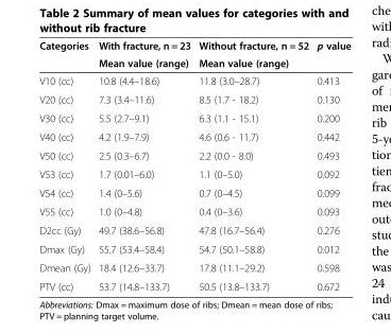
<table><thead><tr><td rowspan="2">Categories</td><td rowspan="2">With fracture, n = 23 Mean value (range)</td><td rowspan="2">Without fracture, n = 52 Mean value (range)</td><td rowspan="2">p value</td></tr><tr></tr></thead><tbody><tr><td>V10 (cc)</td><td>10.8 (4.4–18.6)</td><td>11.8 (3.0–28.7)</td><td>0.413</td></tr><tr><td>V20 (cc)</td><td>7.3 (3.4–11.6)</td><td>8.5 (1.7 - 18.2)</td><td>0.130</td></tr><tr><td>V30 (cc)</td><td>5.5 (2.7–9.1)</td><td>6.3 (1.1 - 15.1)</td><td>0.200</td></tr><tr><td>V40 (cc)</td><td>4.2 (1.9–7.9)</td><td>4.6 (0.6 - 11.7)</td><td>0.442</td></tr><tr><td>V50 (cc)</td><td>2.5 (0.3–6.7)</td><td>2.2 (0.0 - 8.0)</td><td>0.493</td></tr><tr><td>V53 (cc)</td><td>1.7 (0.01–6.0)</td><td>1.1 (0–5.0)</td><td>0.092</td></tr><tr><td>V54 (cc)</td><td>1.4 (0–5.6)</td><td>0.7 (0–4.5)</td><td>0.099</td></tr><tr><td>V55 (cc)</td><td>1.0 (0–4.8)</td><td>0.4 (0–3.6)</td><td>0.093</td></tr><tr><td>D2cc (Gy)</td><td>49.7 (38.6–56.8)</td><td>47.8 (16.7–56.4)</td><td>0.276</td></tr><tr><td>Dmax (Gy)</td><td>55.7 (53.4–58.4)</td><td>54.7 (50.1–58.8)</td><td>0.012</td></tr><tr><td>Dmean (Gy)</td><td>18.4 (12.6–33.7)</td><td>17.8 (11.1–29.2)</td><td>0.598</td></tr><tr><td>PTV (cc)</td><td>53.7 (14.8–133.7)</td><td>50.5 (13.8–133.7)</td><td>0.672</td></tr></tbody></table>